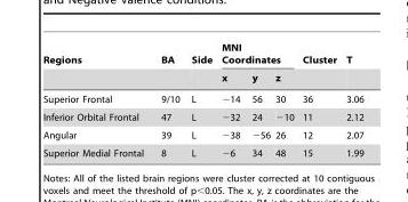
<table><thead><tr><td rowspan="2">Regions</td><td rowspan="2">BA</td><td rowspan="2">Side</td><td colspan="3">MNI Coordinates</td><td rowspan="2">Cluster</td><td rowspan="2">T</td></tr><tr><td>x</td><td>y</td><td>z</td></tr></thead><tbody><tr><td>Superior Frontal</td><td>9/10</td><td>L</td><td>−14</td><td>56</td><td>30</td><td>36</td><td>3.06</td></tr><tr><td>Inferior Orbital Frontal</td><td>47</td><td>L</td><td>−32</td><td>24</td><td>−10</td><td>11</td><td>2.12</td></tr><tr><td>Angular</td><td>39</td><td>L</td><td>−38</td><td>−56</td><td>26</td><td>12</td><td>2.07</td></tr><tr><td>Superior Medial Frontal</td><td>8</td><td>L</td><td>−6</td><td>34</td><td>48</td><td>15</td><td>1.99</td></tr></tbody></table>